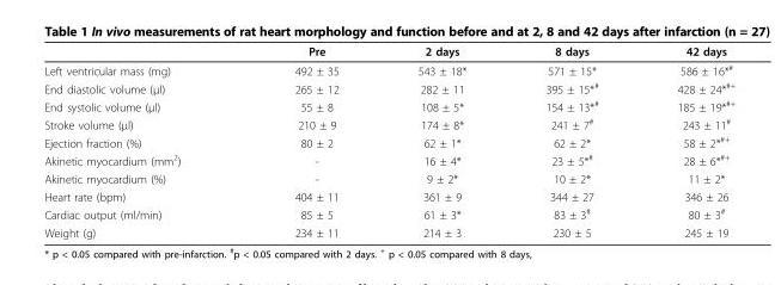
<table><thead><tr><td></td><td>Pre</td><td>2 days</td><td>8 days</td><td>42 days</td></tr></thead><tbody><tr><td>Left ventricular mass (mg)</td><td>492 ± 35</td><td>543 ± 18*</td><td>571 ± 15*</td><td>586 ± 16*<sup>#</sup></td></tr><tr><td>End diastolic volume (μl)</td><td>265 ± 12</td><td>282 ± 11</td><td>395 ± 15*<sup>#</sup></td><td>428 ± 24*<sup>#+</sup></td></tr><tr><td>End systolic volume (μl)</td><td>55 ± 8</td><td>108 ± 5*</td><td>154 ± 13*<sup>#</sup></td><td>185 ± 19*<sup>#+</sup></td></tr><tr><td>Stroke volume (μl)</td><td>210 ± 9</td><td>174 ± 8*</td><td>241 ± 7<sup>#</sup></td><td>243 ± 11<sup>#</sup></td></tr><tr><td>Ejection fraction (%)</td><td>80 ± 2</td><td>62 ± 1*</td><td>62 ± 2*</td><td>58 ± 2*<sup>#+</sup></td></tr><tr><td>Akinetic myocardium (mm<sup>2</sup>)</td><td>-</td><td>16 ± 4*</td><td>23 ± 5*<sup>#</sup></td><td>28 ± 6*<sup>#+</sup></td></tr><tr><td>Akinetic myocardium (%)</td><td>-</td><td>9 ± 2*</td><td>10 ± 2*</td><td>11 ± 2*</td></tr><tr><td>Heart rate (bpm)</td><td>404 ± 11</td><td>361 ± 9</td><td>344 ± 27</td><td>346 ± 26</td></tr><tr><td>Cardiac output (ml/min)</td><td>85 ± 5</td><td>61 ± 3*</td><td>83 ± 3<sup>#</sup></td><td>80 ± 3<sup>#</sup></td></tr><tr><td>Weight (g)</td><td>234 ± 11</td><td>214 ± 3</td><td>230 ± 5</td><td>245 ± 19</td></tr></tbody></table>